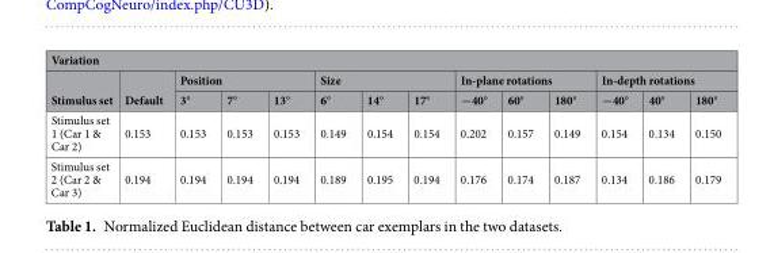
<table><thead><tr><td colspan="14">Variation</td></tr><tr><td rowspan="2">Stimulus set</td><td rowspan="2">Default</td><td colspan="3">Position</td><td colspan="3">Size</td><td colspan="3">In-plane rotations</td><td colspan="3">In-depth rotations</td></tr><tr><td>3°</td><td>7°</td><td>13°</td><td>6°</td><td>14°</td><td>17°</td><td>−40°</td><td>60°</td><td>180°</td><td>−40°</td><td>40°</td><td>180°</td></tr></thead><tbody><tr><td>Stimulus set 1 (Car 1 &amp; Car 2)</td><td>0.153</td><td>0.153</td><td>0.153</td><td>0.153</td><td>0.149</td><td>0.154</td><td>0.154</td><td>0.202</td><td>0.157</td><td>0.149</td><td>0.154</td><td>0.134</td><td>0.150</td></tr><tr><td>Stimulus set 2 (Car 2 &amp; Car 3)</td><td>0.194</td><td>0.194</td><td>0.194</td><td>0.194</td><td>0.189</td><td>0.195</td><td>0.194</td><td>0.176</td><td>0.174</td><td>0.187</td><td>0.134</td><td>0.186</td><td>0.179</td></tr></tbody></table>